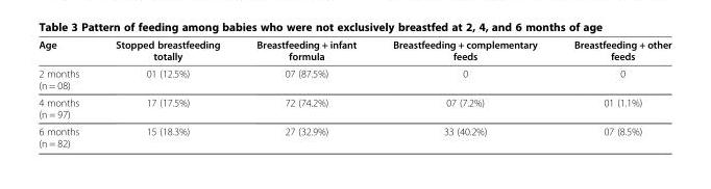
<table><thead><tr><td>Age</td><td>Stopped breastfeeding totally</td><td>Breastfeeding + infant formula</td><td>Breastfeeding + complementary feeds</td><td>Breastfeeding + other feeds</td></tr></thead><tbody><tr><td>2 months (n = 08)</td><td>01 (12.5%)</td><td>07 (87.5%)</td><td>0</td><td>0</td></tr><tr><td>4 months (n = 97)</td><td>17 (17.5%)</td><td>72 (74.2%)</td><td>07 (7.2%)</td><td>01 (1.1%)</td></tr><tr><td>6 months (n = 82)</td><td>15 (18.3%)</td><td>27 (32.9%)</td><td>33 (40.2%)</td><td>07 (8.5%)</td></tr></tbody></table>